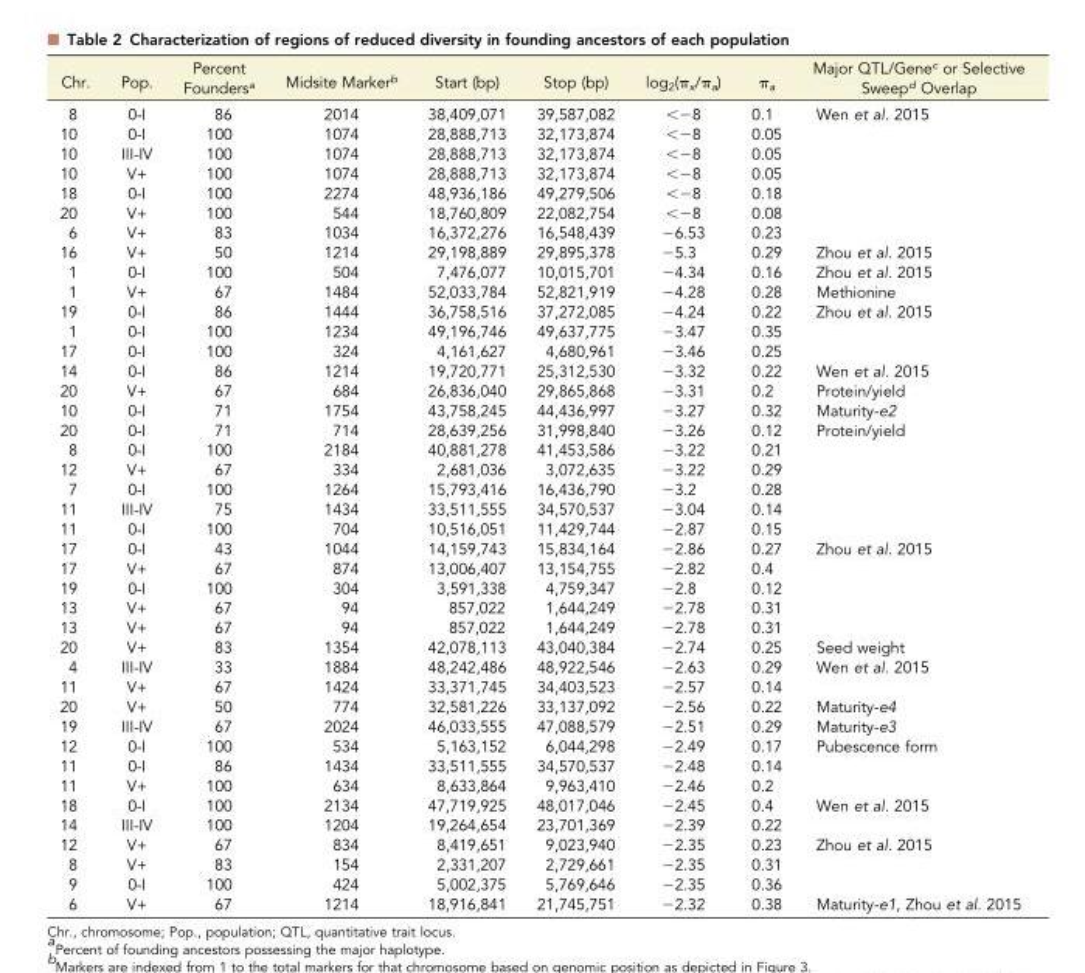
<table><thead><tr><td>Chr.</td><td>Pop.</td><td>Percent Founders<sup>a</sup></td><td>Midsite Marker<sup>b</sup></td><td>Start (bp)</td><td>Stop (bp)</td><td>log<sub>2</sub>(π<sub>x</sub>/π<sub>a</sub>)</td><td>π<sub>a</sub></td><td>Major QTL/Gene<sup>c</sup> or Selective Sweep<sup>d</sup> Overlap</td></tr></thead><tbody><tr><td>8</td><td>0-I</td><td>86</td><td>2014</td><td>38,409,071</td><td>39,587,082</td><td>&lt;−8</td><td>0.1</td><td>Wen et al. 2015</td></tr><tr><td>10</td><td>0-I</td><td>100</td><td>1074</td><td>28,888,713</td><td>32,173,874</td><td>&lt;−8</td><td>0.05</td><td></td></tr><tr><td>10</td><td>III-IV</td><td>100</td><td>1074</td><td>28,888,713</td><td>32,173,874</td><td>&lt;−8</td><td>0.05</td><td></td></tr><tr><td>10</td><td>V+</td><td>100</td><td>1074</td><td>28,888,713</td><td>32,173,874</td><td>&lt;−8</td><td>0.05</td><td></td></tr><tr><td>18</td><td>0-I</td><td>100</td><td>2274</td><td>48,936,186</td><td>49,279,506</td><td>&lt;−8</td><td>0.18</td><td></td></tr><tr><td>20</td><td>V+</td><td>100</td><td>544</td><td>18,760,809</td><td>22,082,754</td><td>&lt;−8</td><td>0.08</td><td></td></tr><tr><td>6</td><td>V+</td><td>83</td><td>1034</td><td>16,372,276</td><td>16,548,439</td><td>−6.53</td><td>0.23</td><td></td></tr><tr><td>16</td><td>V+</td><td>50</td><td>1214</td><td>29,198,889</td><td>29,895,378</td><td>−5.3</td><td>0.29</td><td>Zhou et al. 2015</td></tr><tr><td>1</td><td>0-I</td><td>100</td><td>504</td><td>7,476,077</td><td>10,015,701</td><td>−4.34</td><td>0.16</td><td>Zhou et al. 2015</td></tr><tr><td>1</td><td>V+</td><td>67</td><td>1484</td><td>52,033,784</td><td>52,821,919</td><td>−4.28</td><td>0.28</td><td>Methionine</td></tr><tr><td>19</td><td>0-I</td><td>86</td><td>1444</td><td>36,758,516</td><td>37,272,085</td><td>−4.24</td><td>0.22</td><td>Zhou et al. 2015</td></tr><tr><td>1</td><td>0-I</td><td>100</td><td>1234</td><td>49,196,746</td><td>49,637,775</td><td>−3.47</td><td>0.35</td><td></td></tr><tr><td>17</td><td>0-I</td><td>100</td><td>324</td><td>4,161,627</td><td>4,680,961</td><td>−3.46</td><td>0.25</td><td></td></tr><tr><td>14</td><td>0-I</td><td>86</td><td>1214</td><td>19,720,771</td><td>25,312,530</td><td>−3.32</td><td>0.22</td><td>Wen et al. 2015</td></tr><tr><td>20</td><td>V+</td><td>67</td><td>684</td><td>26,836,040</td><td>29,865,868</td><td>−3.31</td><td>0.2</td><td>Protein/yield</td></tr><tr><td>10</td><td>0-I</td><td>71</td><td>1754</td><td>43,758,245</td><td>44,436,997</td><td>−3.27</td><td>0.32</td><td>Maturity-e2</td></tr><tr><td>20</td><td>0-I</td><td>71</td><td>714</td><td>28,639,256</td><td>31,998,840</td><td>−3.26</td><td>0.12</td><td>Protein/yield</td></tr><tr><td>8</td><td>0-I</td><td>100</td><td>2184</td><td>40,881,278</td><td>41,453,586</td><td>−3.22</td><td>0.21</td><td></td></tr><tr><td>12</td><td>V+</td><td>67</td><td>334</td><td>2,681,036</td><td>3,072,635</td><td>−3.22</td><td>0.29</td><td></td></tr><tr><td>7</td><td>0-I</td><td>100</td><td>1264</td><td>15,793,416</td><td>16,436,790</td><td>−3.2</td><td>0.28</td><td></td></tr><tr><td>11</td><td>III-IV</td><td>75</td><td>1434</td><td>33,511,555</td><td>34,570,537</td><td>−3.04</td><td>0.14</td><td></td></tr><tr><td>11</td><td>0-I</td><td>100</td><td>704</td><td>10,516,051</td><td>11,429,744</td><td>−2.87</td><td>0.15</td><td></td></tr><tr><td>17</td><td>0-I</td><td>43</td><td>1044</td><td>14,159,743</td><td>15,834,164</td><td>−2.86</td><td>0.27</td><td>Zhou et al. 2015</td></tr><tr><td>17</td><td>V+</td><td>67</td><td>874</td><td>13,006,407</td><td>13,154,755</td><td>−2.82</td><td>0.4</td><td></td></tr><tr><td>19</td><td>0-I</td><td>100</td><td>304</td><td>3,591,338</td><td>4,759,347</td><td>−2.8</td><td>0.12</td><td></td></tr><tr><td>13</td><td>V+</td><td>67</td><td>94</td><td>857,022</td><td>1,644,249</td><td>−2.78</td><td>0.31</td><td></td></tr><tr><td>13</td><td>V+</td><td>67</td><td>94</td><td>857,022</td><td>1,644,249</td><td>−2.78</td><td>0.31</td><td></td></tr><tr><td>20</td><td>V+</td><td>83</td><td>1354</td><td>42,078,113</td><td>43,040,384</td><td>−2.74</td><td>0.25</td><td>Seed weight</td></tr><tr><td>4</td><td>III-IV</td><td>33</td><td>1884</td><td>48,242,486</td><td>48,922,546</td><td>−2.63</td><td>0.29</td><td>Wen et al. 2015</td></tr><tr><td>11</td><td>V+</td><td>67</td><td>1424</td><td>33,371,745</td><td>34,403,523</td><td>−2.57</td><td>0.14</td><td></td></tr><tr><td>20</td><td>V+</td><td>50</td><td>774</td><td>32,581,226</td><td>33,137,092</td><td>−2.56</td><td>0.22</td><td>Maturity-e4</td></tr><tr><td>19</td><td>III-IV</td><td>67</td><td>2024</td><td>46,033,555</td><td>47,088,579</td><td>−2.51</td><td>0.29</td><td>Maturity-e3</td></tr><tr><td>12</td><td>0-I</td><td>100</td><td>534</td><td>5,163,152</td><td>6,044,298</td><td>−2.49</td><td>0.17</td><td>Pubescence form</td></tr><tr><td>11</td><td>0-I</td><td>86</td><td>1434</td><td>33,511,555</td><td>34,570,537</td><td>−2.48</td><td>0.14</td><td></td></tr><tr><td>11</td><td>V+</td><td>100</td><td>634</td><td>8,633,864</td><td>9,963,410</td><td>−2.46</td><td>0.2</td><td></td></tr><tr><td>18</td><td>0-I</td><td>100</td><td>2134</td><td>47,719,925</td><td>48,017,046</td><td>−2.45</td><td>0.4</td><td>Wen et al. 2015</td></tr><tr><td>14</td><td>III-IV</td><td>100</td><td>1204</td><td>19,264,654</td><td>23,701,369</td><td>−2.39</td><td>0.22</td><td></td></tr><tr><td>12</td><td>V+</td><td>67</td><td>834</td><td>8,419,651</td><td>9,023,940</td><td>−2.35</td><td>0.23</td><td>Zhou et al. 2015</td></tr><tr><td>8</td><td>V+</td><td>83</td><td>154</td><td>2,331,207</td><td>2,729,661</td><td>−2.35</td><td>0.31</td><td></td></tr><tr><td>9</td><td>0-I</td><td>100</td><td>424</td><td>5,002,375</td><td>5,769,646</td><td>−2.35</td><td>0.36</td><td></td></tr><tr><td>6</td><td>V+</td><td>67</td><td>1214</td><td>18,916,841</td><td>21,745,751</td><td>−2.32</td><td>0.38</td><td>Maturity-e1, Zhou et al. 2015</td></tr></tbody></table>